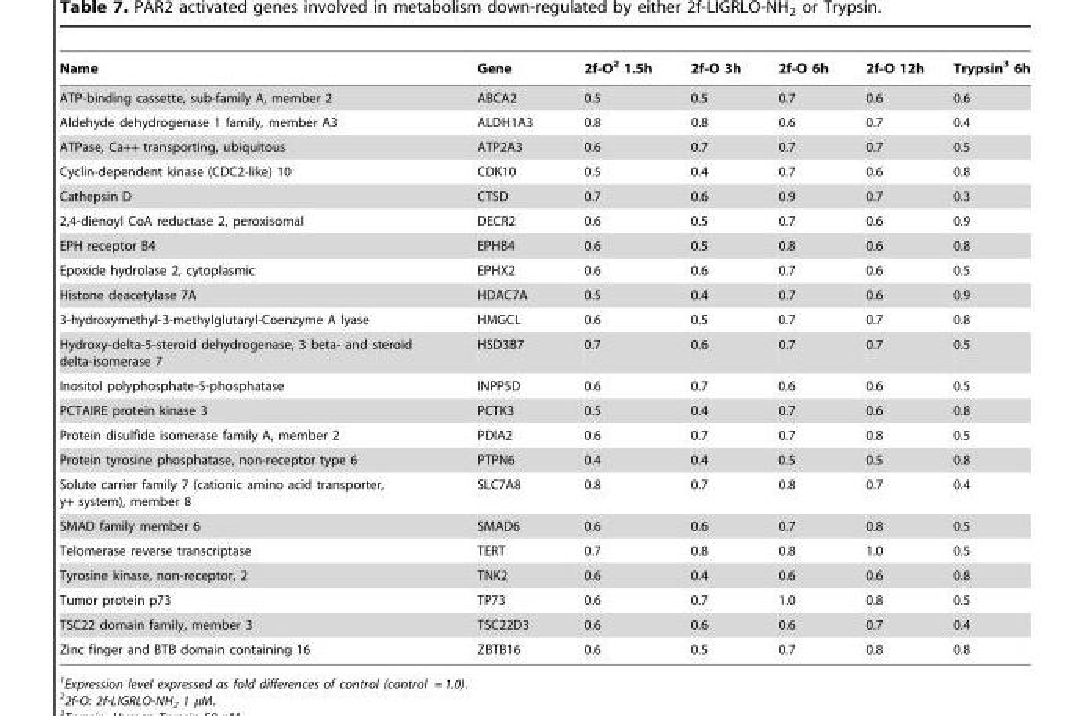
<table><thead><tr><td>Name</td><td>Gene</td><td>2f-O<sup>2</sup> 1.5h</td><td>2f-O 3h</td><td>2f-O 6h</td><td>2f-O 12h</td><td>Trypsin<sup>3</sup> 6h</td></tr></thead><tbody><tr><td>ATP-binding cassette, sub-family A, member 2</td><td>ABCA2</td><td>0.5</td><td>0.5</td><td>0.7</td><td>0.6</td><td>0.6</td></tr><tr><td>Aldehyde dehydrogenase 1 family, member A3</td><td>ALDH1A3</td><td>0.8</td><td>0.8</td><td>0.6</td><td>0.7</td><td>0.4</td></tr><tr><td>ATPase, Ca++ transporting, ubiquitous</td><td>ATP2A3</td><td>0.6</td><td>0.7</td><td>0.7</td><td>0.7</td><td>0.5</td></tr><tr><td>Cyclin-dependent kinase (CDC2-like) 10</td><td>CDK10</td><td>0.5</td><td>0.4</td><td>0.7</td><td>0.6</td><td>0.8</td></tr><tr><td>Cathepsin D</td><td>CTSD</td><td>0.7</td><td>0.6</td><td>0.9</td><td>0.7</td><td>0.3</td></tr><tr><td>2,4-dienoyl CoA reductase 2, peroxisomal</td><td>DECR2</td><td>0.6</td><td>0.5</td><td>0.7</td><td>0.6</td><td>0.9</td></tr><tr><td>EPH receptor B4</td><td>EPHB4</td><td>0.6</td><td>0.5</td><td>0.8</td><td>0.6</td><td>0.8</td></tr><tr><td>Epoxide hydrolase 2, cytoplasmic</td><td>EPHX2</td><td>0.6</td><td>0.6</td><td>0.7</td><td>0.6</td><td>0.5</td></tr><tr><td>Histone deacetylase 7A</td><td>HDAC7A</td><td>0.5</td><td>0.4</td><td>0.7</td><td>0.6</td><td>0.9</td></tr><tr><td>3-hydroxymethyl-3-methylglutaryl-Coenzyme A lyase</td><td>HMGCL</td><td>0.6</td><td>0.5</td><td>0.7</td><td>0.7</td><td>0.8</td></tr><tr><td>Hydroxy-delta-5-steroid dehydrogenase, 3 beta- and steroid delta-isomerase 7</td><td>HSD3B7</td><td>0.7</td><td>0.6</td><td>0.7</td><td>0.7</td><td>0.5</td></tr><tr><td>Inositol polyphosphate-5-phosphatase</td><td>INPP5D</td><td>0.6</td><td>0.7</td><td>0.6</td><td>0.6</td><td>0.5</td></tr><tr><td>PCTAIRE protein kinase 3</td><td>PCTK3</td><td>0.5</td><td>0.4</td><td>0.7</td><td>0.6</td><td>0.8</td></tr><tr><td>Protein disulfide isomerase family A, member 2</td><td>PDIA2</td><td>0.6</td><td>0.7</td><td>0.7</td><td>0.8</td><td>0.5</td></tr><tr><td>Protein tyrosine phosphatase, non-receptor type 6</td><td>PTPN6</td><td>0.4</td><td>0.4</td><td>0.5</td><td>0.5</td><td>0.8</td></tr><tr><td>Solute carrier family 7 (cationic amino acid transporter, y+ system), member 8</td><td>SLC7A8</td><td>0.8</td><td>0.7</td><td>0.8</td><td>0.7</td><td>0.4</td></tr><tr><td>SMAD family member 6</td><td>SMAD6</td><td>0.6</td><td>0.6</td><td>0.7</td><td>0.8</td><td>0.5</td></tr><tr><td>Telomerase reverse transcriptase</td><td>TERT</td><td>0.7</td><td>0.8</td><td>0.8</td><td>1.0</td><td>0.5</td></tr><tr><td>Tyrosine kinase, non-receptor, 2</td><td>TNK2</td><td>0.6</td><td>0.4</td><td>0.6</td><td>0.6</td><td>0.8</td></tr><tr><td>Tumor protein p73</td><td>TP73</td><td>0.6</td><td>0.7</td><td>1.0</td><td>0.8</td><td>0.5</td></tr><tr><td>TSC22 domain family, member 3</td><td>TSC22D3</td><td>0.6</td><td>0.6</td><td>0.6</td><td>0.7</td><td>0.4</td></tr><tr><td>Zinc finger and BTB domain containing 16</td><td>ZBTB16</td><td>0.6</td><td>0.5</td><td>0.7</td><td>0.8</td><td>0.8</td></tr></tbody></table>